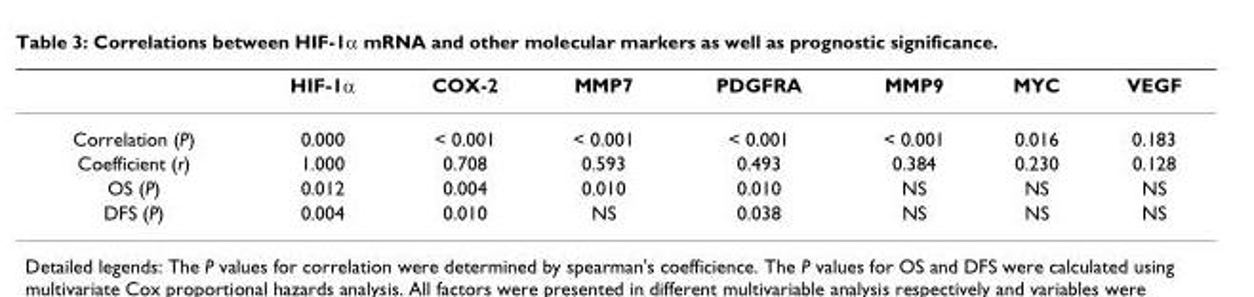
<table><thead><tr><td></td><td>HIF-1α</td><td>COX-2</td><td>MMP7</td><td>PDGFRA</td><td>MMP9</td><td>MYC</td><td>VEGF</td></tr></thead><tbody><tr><td>Correlation (P)</td><td>0.000</td><td>&lt; 0.001</td><td>&lt; 0.001</td><td>&lt; 0.001</td><td>&lt; 0.001</td><td>0.016</td><td>0.183</td></tr><tr><td>Coefficient (r)</td><td>1.000</td><td>0.708</td><td>0.593</td><td>0.493</td><td>0.384</td><td>0.230</td><td>0.128</td></tr><tr><td>OS (P)</td><td>0.012</td><td>0.004</td><td>0.010</td><td>0.010</td><td>NS</td><td>NS</td><td>NS</td></tr><tr><td>DFS (P)</td><td>0.004</td><td>0.010</td><td>NS</td><td>0.038</td><td>NS</td><td>NS</td><td>NS</td></tr></tbody></table>